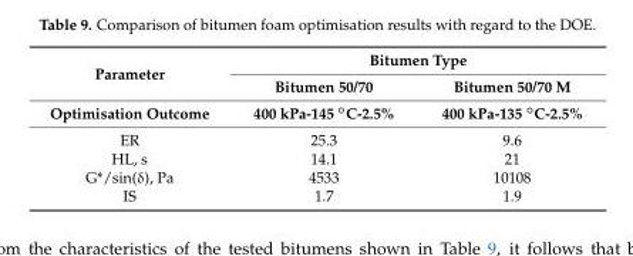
<table><thead><tr><td rowspan="3">Parameter Optimisation Outcome</td><td colspan="2">Bitumen Type</td></tr><tr><td rowspan="2">Bitumen 50/70 400 kPa-145 ◦C-2.5%</td><td rowspan="2">Bitumen 50/70 M 400 kPa-135 ◦C-2.5%</td></tr><tr></tr></thead><tbody><tr><td>ER</td><td>25.3</td><td>9.6</td></tr><tr><td>HL, s</td><td>14.1</td><td>21</td></tr><tr><td>G*/sin(δ), Pa</td><td>4533</td><td>10108</td></tr><tr><td>IS</td><td>1.7</td><td>1.9</td></tr></tbody></table>